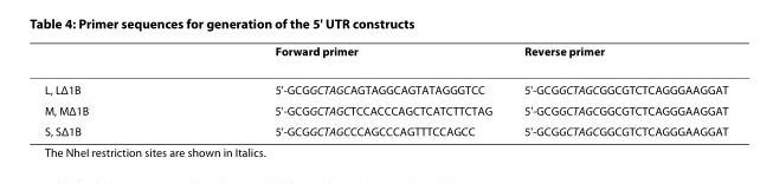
<table><thead><tr><td></td><td>Forward primer</td><td>Reverse primer</td></tr></thead><tbody><tr><td>L, LΔ1B</td><td>5&#x27;-GCGGCTAGCAGTAGGCAGTATAGGGTCC</td><td>5&#x27;-GCGGCTAGCGGCGTCTCAGGGAAGGAT</td></tr><tr><td>M, MΔ1B</td><td>5&#x27;-GCGGCTAGCTCCACCCAGCTCATCTTCTAG</td><td>5&#x27;-GCGGCTAGCGGCGTCTCAGGGAAGGAT</td></tr><tr><td>S, SΔ1B</td><td>5&#x27;-GCGGCTAGCCCAGCCCAGTTTCCAGCC</td><td>5&#x27;-GCGGCTAGCGGCGTCTCAGGGAAGGAT</td></tr></tbody></table>